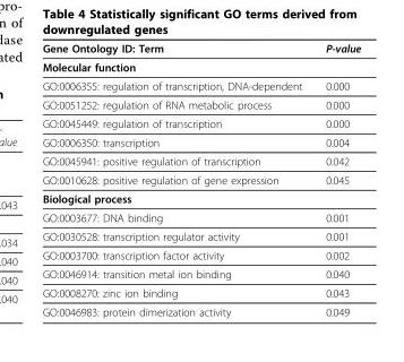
<table><thead><tr><td>Gene Ontology ID: Term</td><td>P-value</td></tr></thead><tbody><tr><td colspan="2">Molecular function</td></tr><tr><td>GO:0006355: regulation of transcription, DNA-dependent</td><td>0.000</td></tr><tr><td>GO:0051252: regulation of RNA metabolic process</td><td>0.000</td></tr><tr><td>GO:0045449: regulation of transcription</td><td>0.000</td></tr><tr><td>GO:0006350: transcription</td><td>0.004</td></tr><tr><td>GO:0045941: positive regulation of transcription</td><td>0.042</td></tr><tr><td>GO:0010628: positive regulation of gene expression</td><td>0.045</td></tr><tr><td colspan="2">Biological process</td></tr><tr><td>GO:0003677: DNA binding</td><td>0.001</td></tr><tr><td>GO:0030528: transcription regulator activity</td><td>0.001</td></tr><tr><td>GO:0003700: transcription factor activity</td><td>0.002</td></tr><tr><td>GO:0046914: transition metal ion binding</td><td>0.040</td></tr><tr><td>GO:0008270: zinc ion binding</td><td>0.043</td></tr><tr><td>GO:0046983: protein dimerization activity</td><td>0.049</td></tr></tbody></table>